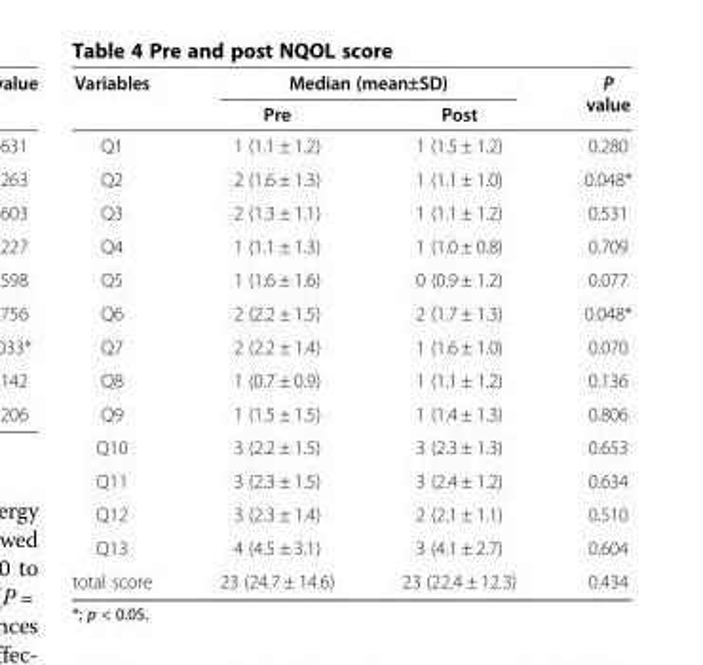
<table><thead><tr><td rowspan="2">Variables</td><td colspan="2">Median (mean±SD)</td><td rowspan="2">P value</td></tr><tr><td>Pre</td><td>Post</td></tr></thead><tbody><tr><td>Q1</td><td>1 (1.1 ± 1.2)</td><td>1 (1.5 ± 1.2)</td><td>0.280</td></tr><tr><td>Q2</td><td>2 (1.6 ± 1.3)</td><td>1 (1.1 ± 1.0)</td><td>0.048*</td></tr><tr><td>Q3</td><td>2 (1.3 ± 1.1)</td><td>1 (1.1 ± 1.2)</td><td>0.531</td></tr><tr><td>Q4</td><td>1 (1.1 ± 1.3)</td><td>1 (1.0 ± 0.8)</td><td>0.709</td></tr><tr><td>Q5</td><td>1 (1.6 ± 1.6)</td><td>0 (0.9 ± 1.2)</td><td>0.077</td></tr><tr><td>Q6</td><td>2 (2.2 ± 1.5)</td><td>2 (1.7 ± 1.3)</td><td>0.048*</td></tr><tr><td>Q7</td><td>2 (2.2 ± 1.4)</td><td>1 (1.6 ± 1.0)</td><td>0.070</td></tr><tr><td>Q8</td><td>1 (0.7 ± 0.9)</td><td>1 (1.1 ± 1.2)</td><td>0.136</td></tr><tr><td>Q9</td><td>1 (1.5 ± 1.5)</td><td>1 (1.4 ± 1.3)</td><td>0.806</td></tr><tr><td>Q10</td><td>3 (2.2 ± 1.5)</td><td>3 (2.3 ± 1.3)</td><td>0.653</td></tr><tr><td>Q11</td><td>3 (2.3 ± 1.5)</td><td>3 (2.4 ± 1.2)</td><td>0.634</td></tr><tr><td>Q12</td><td>3 (2.3 ± 1.4)</td><td>2 (2.1 ± 1.1)</td><td>0.510</td></tr><tr><td>Q13</td><td>4 (4.5 ± 3.1)</td><td>3 (4.1 ± 2.7)</td><td>0.604</td></tr><tr><td>total score</td><td>23 (24.7 ± 14.6)</td><td>23 (22.4 ± 12.3)</td><td>0.434</td></tr></tbody></table>